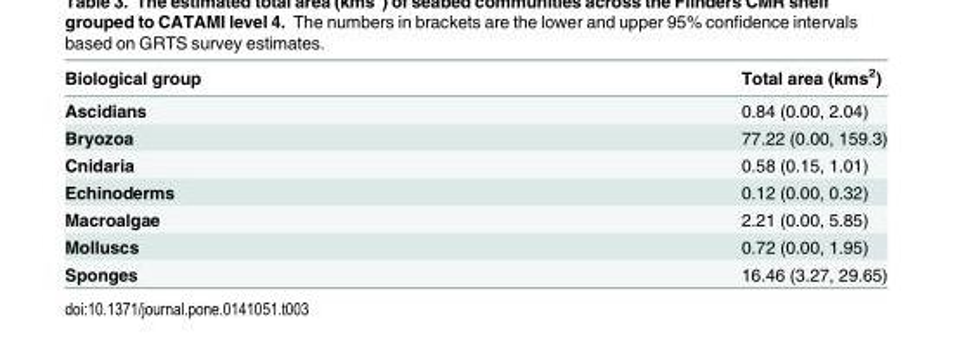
<table><thead><tr><td>Biological group</td><td>Total area (kms<sup>2</sup>)</td></tr></thead><tbody><tr><td>Ascidians</td><td>0.84 (0.00, 2.04)</td></tr><tr><td>Bryozoa</td><td>77.22 (0.00, 159.3)</td></tr><tr><td>Cnidaria</td><td>0.58 (0.15, 1.01)</td></tr><tr><td>Echinoderms</td><td>0.12 (0.00, 0.32)</td></tr><tr><td>Macroalgae</td><td>2.21 (0.00, 5.85)</td></tr><tr><td>Molluscs</td><td>0.72 (0.00, 1.95)</td></tr><tr><td>Sponges</td><td>16.46 (3.27, 29.65)</td></tr></tbody></table>